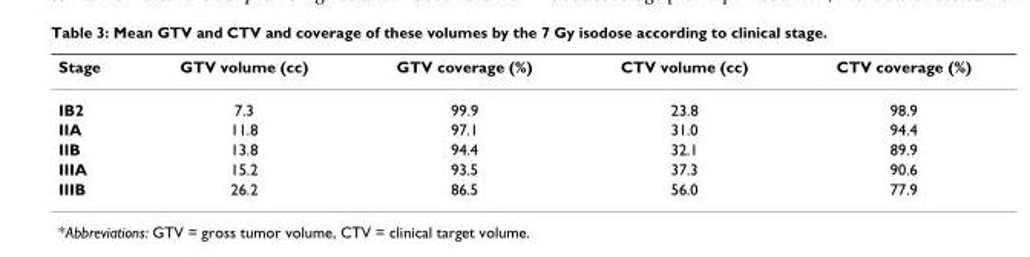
<table><thead><tr><td>Stage</td><td>GTV volume (cc)</td><td>GTV coverage (%)</td><td>CTV volume (cc)</td><td>CTV coverage (%)</td></tr></thead><tbody><tr><td>IB2</td><td>7.3</td><td>99.9</td><td>23.8</td><td>98.9</td></tr><tr><td>IIA</td><td>11.8</td><td>97.1</td><td>31.0</td><td>94.4</td></tr><tr><td>IIB</td><td>13.8</td><td>94.4</td><td>32.1</td><td>89.9</td></tr><tr><td>IIIA</td><td>15.2</td><td>93.5</td><td>37.3</td><td>90.6</td></tr><tr><td>IIIB</td><td>26.2</td><td>86.5</td><td>56.0</td><td>77.9</td></tr></tbody></table>